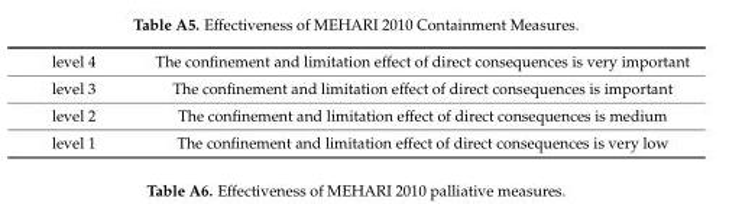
<table><tbody><tr><td>level 4</td><td>The confinement and limitation effect of direct consequences is very important</td></tr><tr><td>level 3</td><td>The confinement and limitation effect of direct consequences is important</td></tr><tr><td>level 2</td><td>The confinement and limitation effect of direct consequences is medium</td></tr><tr><td>level 1</td><td>The confinement and limitation effect of direct consequences is very low</td></tr></tbody></table>